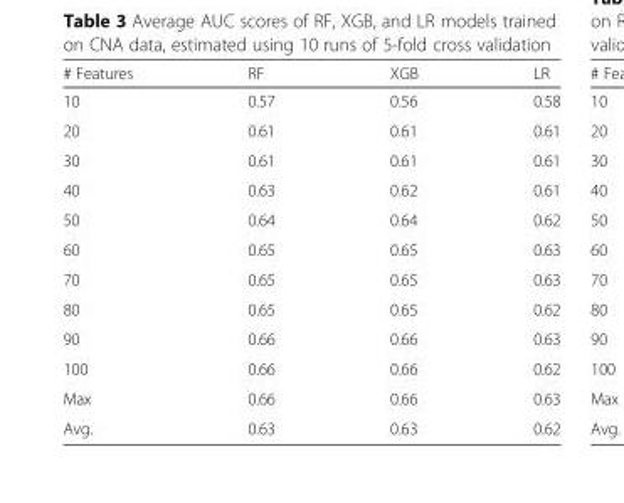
<table><thead><tr><td># Features</td><td>RF</td><td>XGB</td><td>LR</td></tr></thead><tbody><tr><td>10</td><td>0.57</td><td>0.56</td><td>0.58</td></tr><tr><td>20</td><td>0.61</td><td>0.61</td><td>0.61</td></tr><tr><td>30</td><td>0.61</td><td>0.61</td><td>0.61</td></tr><tr><td>40</td><td>0.63</td><td>0.62</td><td>0.61</td></tr><tr><td>50</td><td>0.64</td><td>0.64</td><td>0.62</td></tr><tr><td>60</td><td>0.65</td><td>0.65</td><td>0.63</td></tr><tr><td>70</td><td>0.65</td><td>0.65</td><td>0.63</td></tr><tr><td>80</td><td>0.65</td><td>0.65</td><td>0.62</td></tr><tr><td>90</td><td>0.66</td><td>0.66</td><td>0.63</td></tr><tr><td>100</td><td>0.66</td><td>0.66</td><td>0.62</td></tr><tr><td>Max</td><td>0.66</td><td>0.66</td><td>0.63</td></tr><tr><td>Avg.</td><td>0.63</td><td>0.63</td><td>0.62</td></tr></tbody></table>